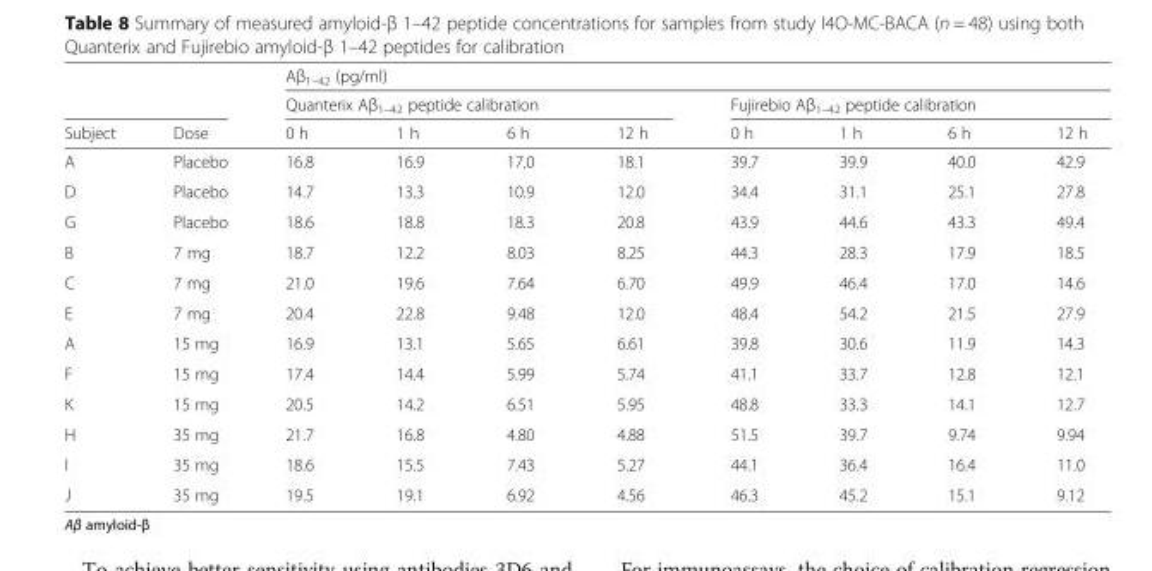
<table><thead><tr><td rowspan="3">Subject</td><td rowspan="3">Dose</td><td colspan="8">Aβ<sub>1–42</sub> (pg/ml)</td></tr><tr><td colspan="4">Quanterix Aβ<sub>1–42</sub> peptide calibration</td><td colspan="4">Fujirebio Aβ<sub>1–42</sub> peptide calibration</td></tr><tr><td>0 h</td><td>1 h</td><td>6 h</td><td>12 h</td><td>0 h</td><td>1 h</td><td>6 h</td><td>12 h</td></tr></thead><tbody><tr><td>A</td><td>Placebo</td><td>16.8</td><td>16.9</td><td>17.0</td><td>18.1</td><td>39.7</td><td>39.9</td><td>40.0</td><td>42.9</td></tr><tr><td>D</td><td>Placebo</td><td>14.7</td><td>13.3</td><td>10.9</td><td>12.0</td><td>34.4</td><td>31.1</td><td>25.1</td><td>27.8</td></tr><tr><td>G</td><td>Placebo</td><td>18.6</td><td>18.8</td><td>18.3</td><td>20.8</td><td>43.9</td><td>44.6</td><td>43.3</td><td>49.4</td></tr><tr><td>B</td><td>7 mg</td><td>18.7</td><td>12.2</td><td>8.03</td><td>8.25</td><td>44.3</td><td>28.3</td><td>17.9</td><td>18.5</td></tr><tr><td>C</td><td>7 mg</td><td>21.0</td><td>19.6</td><td>7.64</td><td>6.70</td><td>49.9</td><td>46.4</td><td>17.0</td><td>14.6</td></tr><tr><td>E</td><td>7 mg</td><td>20.4</td><td>22.8</td><td>9.48</td><td>12.0</td><td>48.4</td><td>54.2</td><td>21.5</td><td>27.9</td></tr><tr><td>A</td><td>15 mg</td><td>16.9</td><td>13.1</td><td>5.65</td><td>6.61</td><td>39.8</td><td>30.6</td><td>11.9</td><td>14.3</td></tr><tr><td>F</td><td>15 mg</td><td>17.4</td><td>14.4</td><td>5.99</td><td>5.74</td><td>41.1</td><td>33.7</td><td>12.8</td><td>12.1</td></tr><tr><td>K</td><td>15 mg</td><td>20.5</td><td>14.2</td><td>6.51</td><td>5.95</td><td>48.8</td><td>33.3</td><td>14.1</td><td>12.7</td></tr><tr><td>H</td><td>35 mg</td><td>21.7</td><td>16.8</td><td>4.80</td><td>4.88</td><td>51.5</td><td>39.7</td><td>9.74</td><td>9.94</td></tr><tr><td>I</td><td>35 mg</td><td>18.6</td><td>15.5</td><td>7.43</td><td>5.27</td><td>44.1</td><td>36.4</td><td>16.4</td><td>11.0</td></tr><tr><td>J</td><td>35 mg</td><td>19.5</td><td>19.1</td><td>6.92</td><td>4.56</td><td>46.3</td><td>45.2</td><td>15.1</td><td>9.12</td></tr></tbody></table>